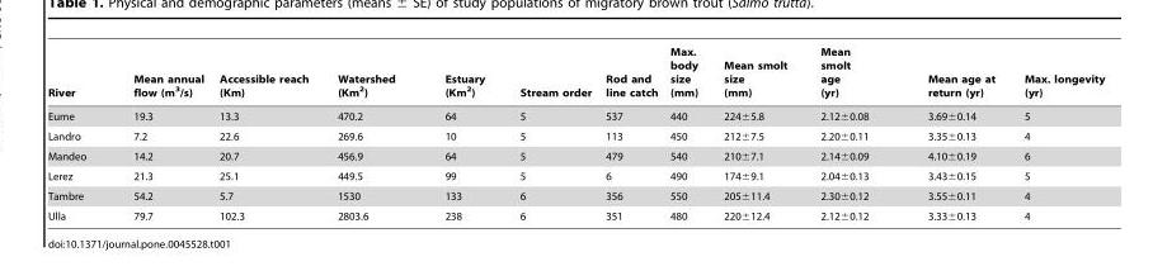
<table><thead><tr><td>River</td><td>Mean annual flow (m<sup>3</sup>/s)</td><td>Accessible reach (Km)</td><td>Watershed (Km<sup>2</sup>)</td><td>Estuary (Km<sup>2</sup>)</td><td>Stream order</td><td>Rod and line catch</td><td>Max. body size (mm)</td><td>Mean smolt size (mm)</td><td>Mean smolt age (yr)</td><td>Mean age at return (yr)</td><td>Max. longevity (yr)</td></tr></thead><tbody><tr><td>Eume</td><td>19.3</td><td>13.3</td><td>470.2</td><td>64</td><td>5</td><td>537</td><td>440</td><td>224±5.8</td><td>2.12±0.08</td><td>3.69±0.14</td><td>5</td></tr><tr><td>Landro</td><td>7.2</td><td>22.6</td><td>269.6</td><td>10</td><td>5</td><td>113</td><td>450</td><td>212±7.5</td><td>2.20±0.11</td><td>3.35±0.13</td><td>4</td></tr><tr><td>Mandeo</td><td>14.2</td><td>20.7</td><td>456.9</td><td>64</td><td>5</td><td>479</td><td>540</td><td>210±7.1</td><td>2.14±0.09</td><td>4.10±0.19</td><td>6</td></tr><tr><td>Lerez</td><td>21.3</td><td>25.1</td><td>449.5</td><td>99</td><td>5</td><td>6</td><td>490</td><td>174±9.1</td><td>2.04±0.13</td><td>3.43±0.15</td><td>5</td></tr><tr><td>Tambre</td><td>54.2</td><td>5.7</td><td>1530</td><td>133</td><td>6</td><td>356</td><td>550</td><td>205±11.4</td><td>2.30±0.12</td><td>3.55±0.11</td><td>4</td></tr><tr><td>Ulla</td><td>79.7</td><td>102.3</td><td>2803.6</td><td>238</td><td>6</td><td>351</td><td>480</td><td>220±12.4</td><td>2.12±0.12</td><td>3.33±0.13</td><td>4</td></tr></tbody></table>